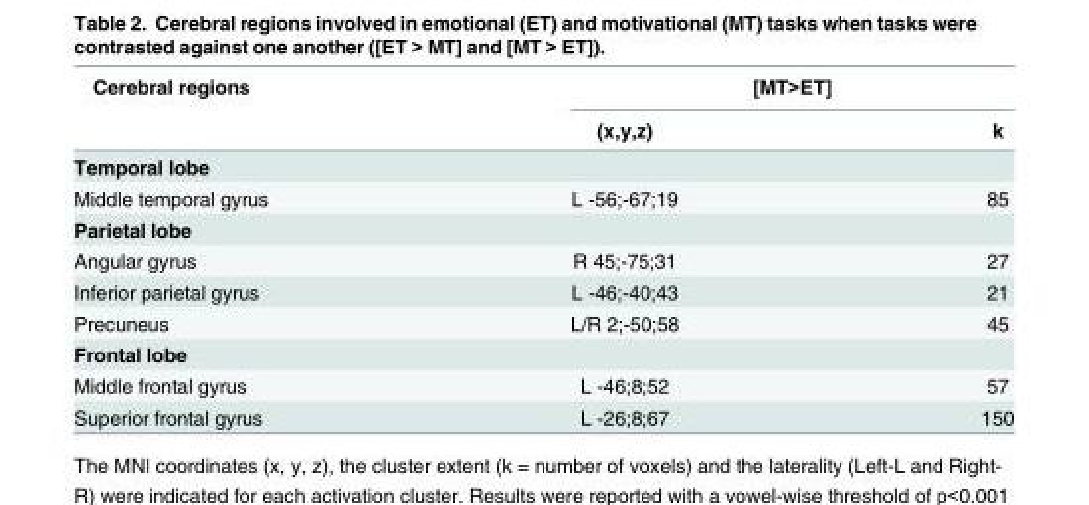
<table><thead><tr><td rowspan="2">Cerebral regions</td><td colspan="2">[MT&gt;ET]</td></tr><tr><td>(x,y,z)</td><td>k</td></tr></thead><tbody><tr><td colspan="3">Temporal lobe</td></tr><tr><td>Middle temporal gyrus</td><td>L -56;-67;19</td><td>85</td></tr><tr><td colspan="3">Parietal lobe</td></tr><tr><td>Angular gyrus</td><td>R 45;-75;31</td><td>27</td></tr><tr><td>Inferior parietal gyrus</td><td>L -46;-40;43</td><td>21</td></tr><tr><td>Precuneus</td><td>L/R 2;-50;58</td><td>45</td></tr><tr><td colspan="3">Frontal lobe</td></tr><tr><td>Middle frontal gyrus</td><td>L -46;8;52</td><td>57</td></tr><tr><td>Superior frontal gyrus</td><td>L -26;8;67</td><td>150</td></tr></tbody></table>